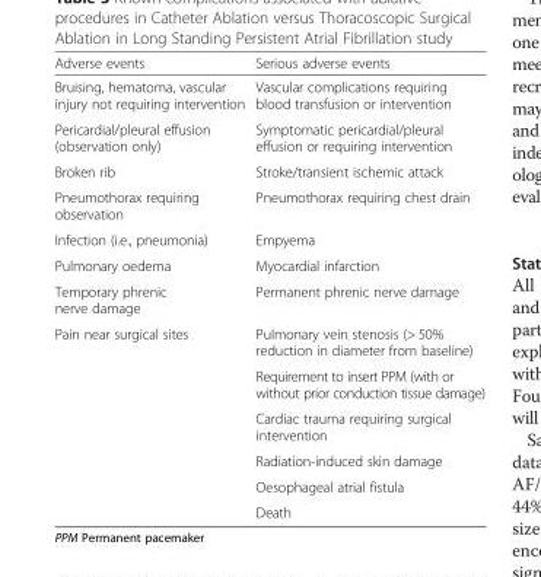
<table><thead><tr><td>Adverse events</td><td>Serious adverse events</td></tr></thead><tbody><tr><td>Bruising, hematoma, vascular injury not requiring intervention</td><td>Vascular complications requiring blood transfusion or intervention</td></tr><tr><td>Pericardial/pleural effusion (observation only)</td><td>Symptomatic pericardial/pleural effusion or requiring intervention</td></tr><tr><td>Broken rib</td><td>Stroke/transient ischemic attack</td></tr><tr><td>Pneumothorax requiring observation</td><td>Pneumothorax requiring chest drain</td></tr><tr><td>Infection (i.e., pneumonia)</td><td>Empyema</td></tr><tr><td>Pulmonary oedema</td><td>Myocardial infarction</td></tr><tr><td>Temporary phrenic nerve damage</td><td>Permanent phrenic nerve damage</td></tr><tr><td rowspan="6">Pain near surgical sites</td><td>Pulmonary vein stenosis (&gt; 50% reduction in diameter from baseline)</td></tr><tr><td>Requirement to insert PPM (with or without prior conduction tissue damage)</td></tr><tr><td>Cardiac trauma requiring surgical intervention</td></tr><tr><td>Radiation-induced skin damage</td></tr><tr><td>Oesophageal atrial fistula</td></tr><tr><td>Death</td></tr></tbody></table>